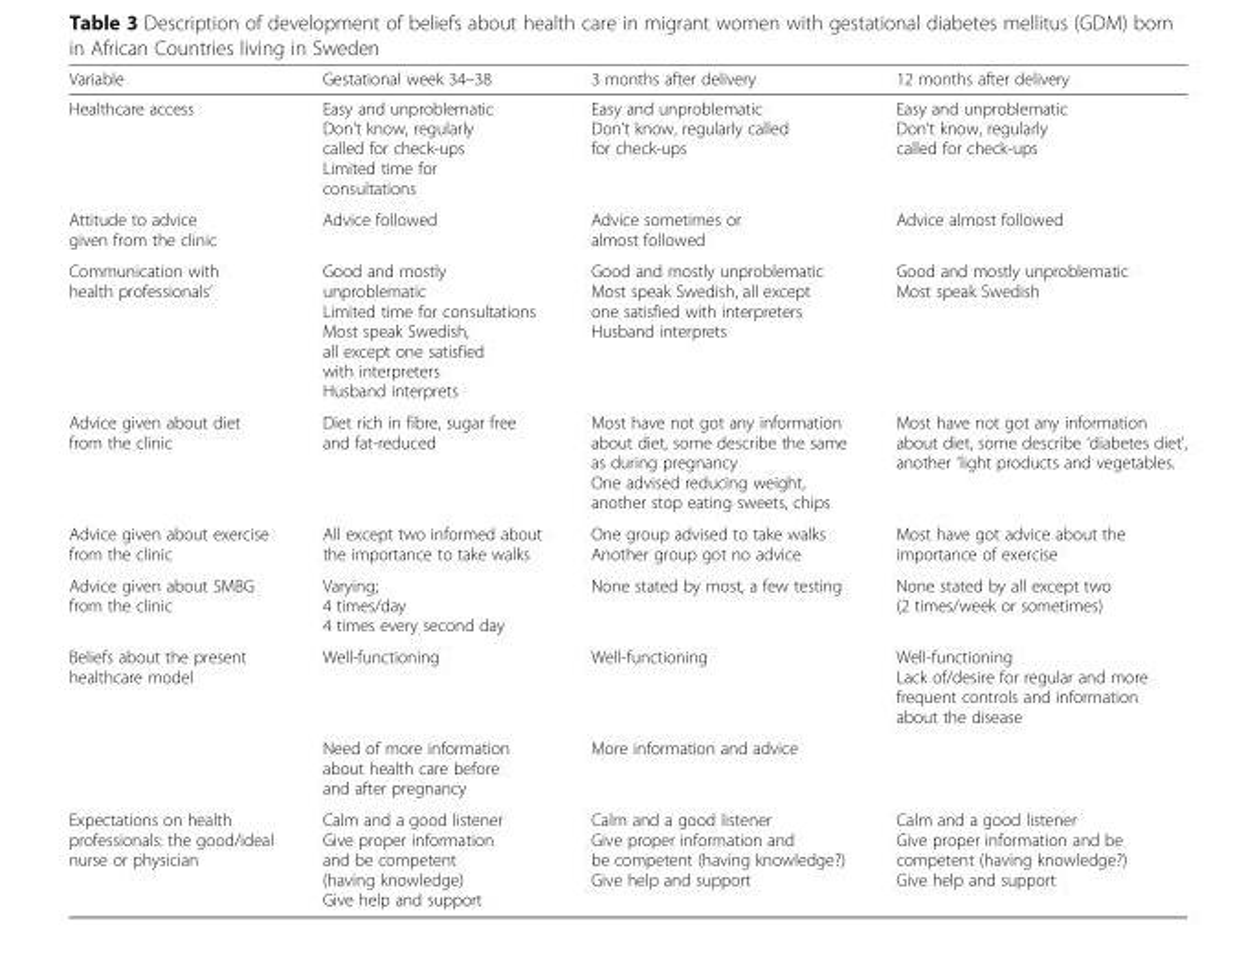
<table><thead><tr><td>Variable</td><td>Gestational week 34–38</td><td>3 months after delivery</td><td>12 months after delivery</td></tr></thead><tbody><tr><td>Healthcare access</td><td>Easy and unproblematic Don’t know, regularly called for check-ups Limited time for consultations</td><td>Easy and unproblematic Don’t know, regularly called for check-ups</td><td>Easy and unproblematic Don’t know, regularly called for check-ups</td></tr><tr><td>Attitude to advice given from the clinic</td><td>Advice followed</td><td>Advice sometimes or almost followed</td><td>Advice almost followed</td></tr><tr><td>Communication with health professionals’</td><td>Good and mostly unproblematic Limited time for consultations Most speak Swedish, all except one satisfied with interpreters Husband interprets</td><td>Good and mostly unproblematic Most speak Swedish, all except one satisfied with interpreters Husband interprets</td><td>Good and mostly unproblematic Most speak Swedish</td></tr><tr><td>Advice given about diet from the clinic</td><td>Diet rich in fibre, sugar free and fat-reduced</td><td>Most have not got any information about diet, some describe the same as during pregnancy One advised reducing weight, another stop eating sweets, chips</td><td>Most have not got any information about diet, some describe ‘diabetes diet’, another ‘light products and vegetables.</td></tr><tr><td>Advice given about exercise from the clinic</td><td>All except two informed about the importance to take walks</td><td>One group advised to take walks Another group got no advice</td><td>Most have got advice about the importance of exercise</td></tr><tr><td>Advice given about SMBG from the clinic</td><td>Varying; 4 times/day 4 times every second day</td><td>None stated by most, a few testing</td><td>None stated by all except two (2 times/week or sometimes)</td></tr><tr><td rowspan="2">Beliefs about the present healthcare model</td><td>Well-functioning</td><td>Well-functioning</td><td>Well-functioning Lack of/desire for regular and more frequent controls and information about the disease</td></tr><tr><td>Need of more information about health care before and after pregnancy</td><td>More information and advice</td><td></td></tr><tr><td>Expectations on health professionals: the good/ideal nurse or physician</td><td>Calm and a good listener Give proper information and be competent (having knowledge) Give help and support</td><td>Calm and a good listener Give proper information and be competent (having knowledge?) Give help and support</td><td>Calm and a good listener Give proper information and be competent (having knowledge?) Give help and support</td></tr></tbody></table>